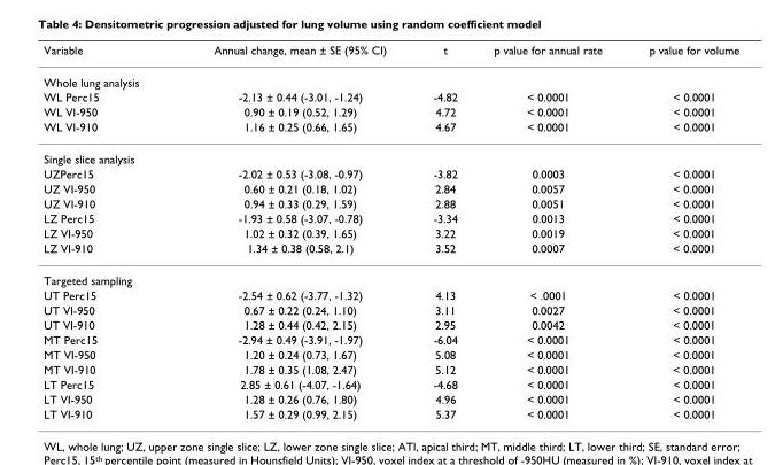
<table><thead><tr><td>Variable</td><td>Annual change, mean ± SE (95% CI)</td><td>t</td><td>p value for annual rate</td><td>p value for volume</td></tr></thead><tbody><tr><td colspan="5">Whole lung analysis</td></tr><tr><td>WL Perc15</td><td>-2.13 ± 0.44 (-3.01, -1.24)</td><td>-4.82</td><td>&lt; 0.0001</td><td>&lt; 0.0001</td></tr><tr><td>WL VI-950</td><td>0.90 ± 0.19 (0.52, 1.29)</td><td>4.72</td><td>&lt; 0.0001</td><td>&lt; 0.0001</td></tr><tr><td>WL VI-910</td><td>1.16 ± 0.25 (0.66, 1.65)</td><td>4.67</td><td>&lt; 0.0001</td><td>&lt; 0.0001</td></tr><tr><td colspan="5">Single slice analysis</td></tr><tr><td>UZPerc15</td><td>-2.02 ± 0.53 (-3.08, -0.97)</td><td>-3.82</td><td>0.0003</td><td>&lt; 0.0001</td></tr><tr><td>UZ VI-950</td><td>0.60 ± 0.21 (0.18, 1.02)</td><td>2.84</td><td>0.0057</td><td>&lt; 0.0001</td></tr><tr><td>UZ VI-910</td><td>0.94 ± 0.33 (0.29, 1.59)</td><td>2.88</td><td>0.0051</td><td>&lt; 0.0001</td></tr><tr><td>LZ Perc15</td><td>-1.93 ± 0.58 (-3.07, -0.78)</td><td>-3.34</td><td>0.0013</td><td>&lt; 0.0001</td></tr><tr><td>LZ VI-950</td><td>1.02 ± 0.32 (0.39, 1.65)</td><td>3.22</td><td>0.0019</td><td>&lt; 0.0001</td></tr><tr><td>LZ VI-910</td><td>1.34 ± 0.38 (0.58, 2.1)</td><td>3.52</td><td>0.0007</td><td>&lt; 0.0001</td></tr><tr><td colspan="5">Targeted sampling</td></tr><tr><td>UT Perc15</td><td>-2.54 ± 0.62 (-3.77, -1.32)</td><td>4.13</td><td>&lt; .0001</td><td>&lt; 0.0001</td></tr><tr><td>UT VI-950</td><td>0.67 ± 0.22 (0.24, 1.10)</td><td>3.11</td><td>0.0027</td><td>&lt; 0.0001</td></tr><tr><td>UT VI-910</td><td>1.28 ± 0.44 (0.42, 2.15)</td><td>2.95</td><td>0.0042</td><td>&lt; 0.0001</td></tr><tr><td>MT Perc15</td><td>-2.94 ± 0.49 (-3.91, -1.97)</td><td>-6.04</td><td>&lt; 0.0001</td><td>&lt; 0.0001</td></tr><tr><td>MT VI-950</td><td>1.20 ± 0.24 (0.73, 1.67)</td><td>5.08</td><td>&lt; 0.0001</td><td>&lt; 0.0001</td></tr><tr><td>MT VI-910</td><td>1.78 ± 0.35 (1.08, 2.47)</td><td>5.12</td><td>&lt; 0.0001</td><td>&lt; 0.0001</td></tr><tr><td>LT Perc15</td><td>2.85 ± 0.61 (-4.07, -1.64)</td><td>-4.68</td><td>&lt; 0.0001</td><td>&lt; 0.0001</td></tr><tr><td>LT VI-950</td><td>1.28 ± 0.26 (0.76, 1.80)</td><td>4.96</td><td>&lt; 0.0001</td><td>&lt; 0.0001</td></tr><tr><td>LT VI-910</td><td>1.57 ± 0.29 (0.99, 2.15)</td><td>5.37</td><td>&lt; 0.0001</td><td>&lt; 0.0001</td></tr></tbody></table>